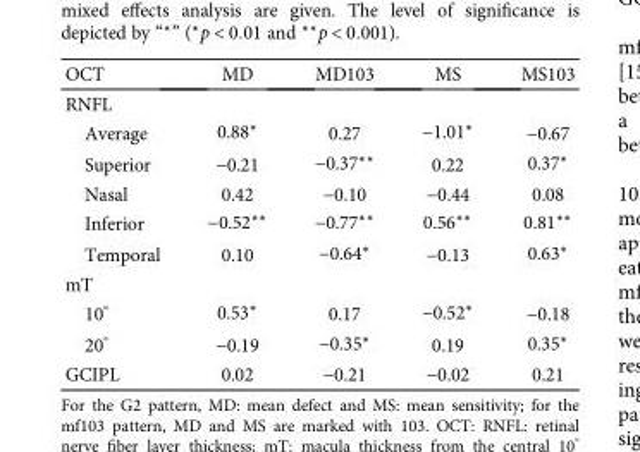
<table><thead><tr><td>OCT</td><td>MD</td><td>MD103</td><td>MS</td><td>MS103</td></tr></thead><tbody><tr><td colspan="5">RNFL</td></tr><tr><td>Average</td><td>0.88∗</td><td>0.27</td><td>−1.01∗</td><td>−0.67</td></tr><tr><td>Superior</td><td>−0.21</td><td>−0.37∗∗</td><td>0.22</td><td>0.37∗</td></tr><tr><td>Nasal</td><td>0.42</td><td>−0.10</td><td>−0.44</td><td>0.08</td></tr><tr><td>Inferior</td><td>−0.52∗∗</td><td>−0.77∗∗</td><td>0.56∗∗</td><td>0.81∗∗</td></tr><tr><td>Temporal</td><td>0.10</td><td>−0.64∗</td><td>−0.13</td><td>0.63∗</td></tr><tr><td colspan="5">mT</td></tr><tr><td>10°</td><td>0.53∗</td><td>0.17</td><td>−0.52∗</td><td>−0.18</td></tr><tr><td>20°</td><td>−0.19</td><td>−0.35∗</td><td>0.19</td><td>0.35∗</td></tr><tr><td>GCIPL</td><td>0.02</td><td>−0.21</td><td>−0.02</td><td>0.21</td></tr></tbody></table>